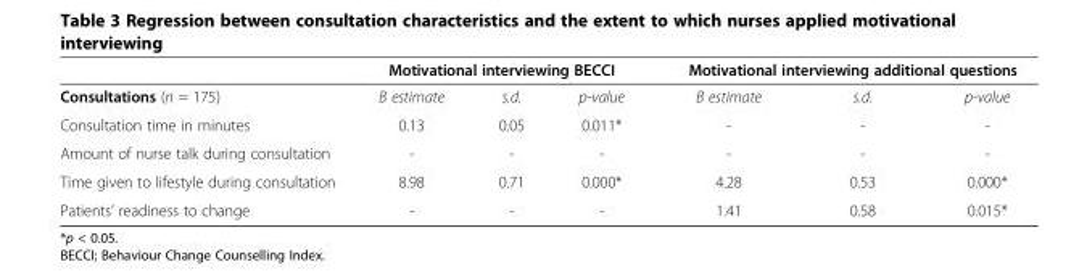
<table><thead><tr><td rowspan="2">Consultations (n = 175)</td><td colspan="3">Motivational interviewing BECCI</td><td colspan="3">Motivational interviewing additional questions</td></tr><tr><td>B estimate</td><td>s.d.</td><td>p-value</td><td>B estimate</td><td>s.d.</td><td>p-value</td></tr></thead><tbody><tr><td>Consultation time in minutes</td><td>0.13</td><td>0.05</td><td>0.011*</td><td>-</td><td>-</td><td>-</td></tr><tr><td>Amount of nurse talk during consultation</td><td>-</td><td>-</td><td>-</td><td>-</td><td>-</td><td>-</td></tr><tr><td>Time given to lifestyle during consultation</td><td>8.98</td><td>0.71</td><td>0.000*</td><td>4.28</td><td>0.53</td><td>0.000*</td></tr><tr><td>Patients’ readiness to change</td><td>-</td><td>-</td><td>-</td><td>1.41</td><td>0.58</td><td>0.015*</td></tr></tbody></table>